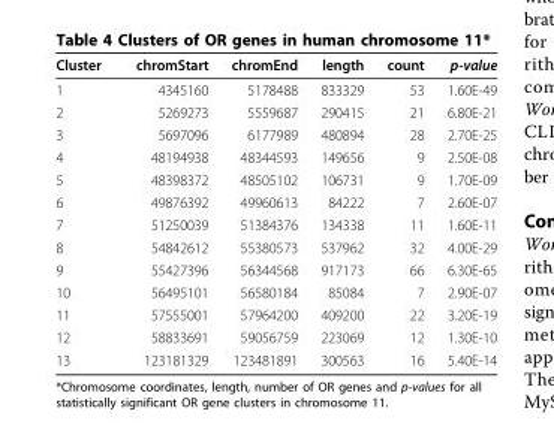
<table><thead><tr><td>Cluster</td><td>chromStart</td><td>chromEnd</td><td>length</td><td>count</td><td>p-value</td></tr></thead><tbody><tr><td>1</td><td>4345160</td><td>5178488</td><td>833329</td><td>53</td><td>1.60E-49</td></tr><tr><td>2</td><td>5269273</td><td>5559687</td><td>290415</td><td>21</td><td>6.80E-21</td></tr><tr><td>3</td><td>5697096</td><td>6177989</td><td>480894</td><td>28</td><td>2.70E-25</td></tr><tr><td>4</td><td>48194938</td><td>48344593</td><td>149656</td><td>9</td><td>2.50E-08</td></tr><tr><td>5</td><td>48398372</td><td>48505102</td><td>106731</td><td>9</td><td>1.70E-09</td></tr><tr><td>6</td><td>49876392</td><td>49960613</td><td>84222</td><td>7</td><td>2.60E-07</td></tr><tr><td>7</td><td>51250039</td><td>51384376</td><td>134338</td><td>11</td><td>1.60E-11</td></tr><tr><td>8</td><td>54842612</td><td>55380573</td><td>537962</td><td>32</td><td>4.00E-29</td></tr><tr><td>9</td><td>55427396</td><td>56344568</td><td>917173</td><td>66</td><td>6.30E-65</td></tr><tr><td>10</td><td>56495101</td><td>56580184</td><td>85084</td><td>7</td><td>2.90E-07</td></tr><tr><td>11</td><td>57555001</td><td>57964200</td><td>409200</td><td>22</td><td>3.20E-19</td></tr><tr><td>12</td><td>58833691</td><td>59056759</td><td>223069</td><td>12</td><td>1.30E-10</td></tr><tr><td>13</td><td>123181329</td><td>123481891</td><td>300563</td><td>16</td><td>5.40E-14</td></tr></tbody></table>